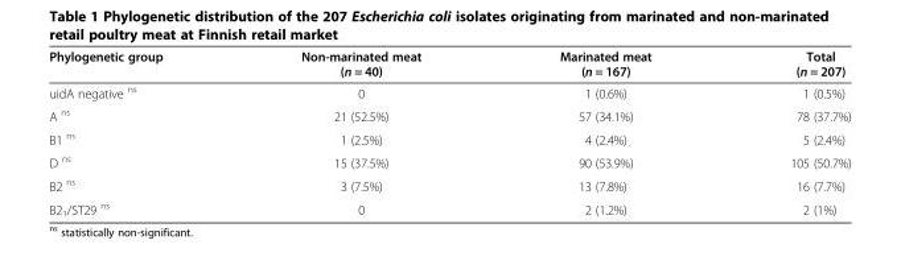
<table><thead><tr><td>Phylogenetic group</td><td>Non-marinated meat (n = 40)</td><td>Marinated meat (n = 167)</td><td>Total (n = 207)</td></tr></thead><tbody><tr><td>uidA negative <sup>ns</sup></td><td>0</td><td>1 (0.6%)</td><td>1 (0.5%)</td></tr><tr><td>A <sup>ns</sup></td><td>21 (52.5%)</td><td>57 (34.1%)</td><td>78 (37.7%)</td></tr><tr><td>B1 <sup>ns</sup></td><td>1 (2.5%)</td><td>4 (2.4%)</td><td>5 (2.4%)</td></tr><tr><td>D <sup>ns</sup></td><td>15 (37.5%)</td><td>90 (53.9%)</td><td>105 (50.7%)</td></tr><tr><td>B2 <sup>ns</sup></td><td>3 (7.5%)</td><td>13 (7.8%)</td><td>16 (7.7%)</td></tr><tr><td>B2<sub>1</sub>/ST29 <sup>ns</sup></td><td>0</td><td>2 (1.2%)</td><td>2 (1%)</td></tr></tbody></table>